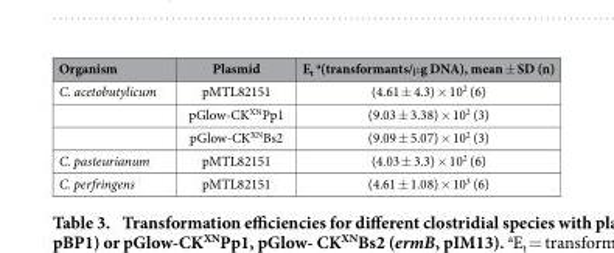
<table><thead><tr><td>Organism</td><td>Plasmid</td><td>E<sub>t</sub> a(transformants/μ g DNA), mean ± SD (n)</td></tr></thead><tbody><tr><td rowspan="3">C. acetobutylicum</td><td>pMTL82151</td><td>(4.61 ± 4.3) × 10<sup>2</sup> (6)</td></tr><tr><td>pGlow-CK<sup>XN</sup>Pp1</td><td>(9.03 ± 3.38) × 10<sup>2</sup> (3)</td></tr><tr><td>pGlow-CK<sup>XN</sup>Bs2</td><td>(9.09 ± 5.07) × 10<sup>2</sup> (3)</td></tr><tr><td>C. pasteurianum</td><td>pMTL82151</td><td>(4.03 ± 3.3) × 10<sup>2</sup> (6)</td></tr><tr><td>C. perfringens</td><td>pMTL82151</td><td>(4.61 ± 1.08) × 10<sup>3</sup> (6)</td></tr></tbody></table>